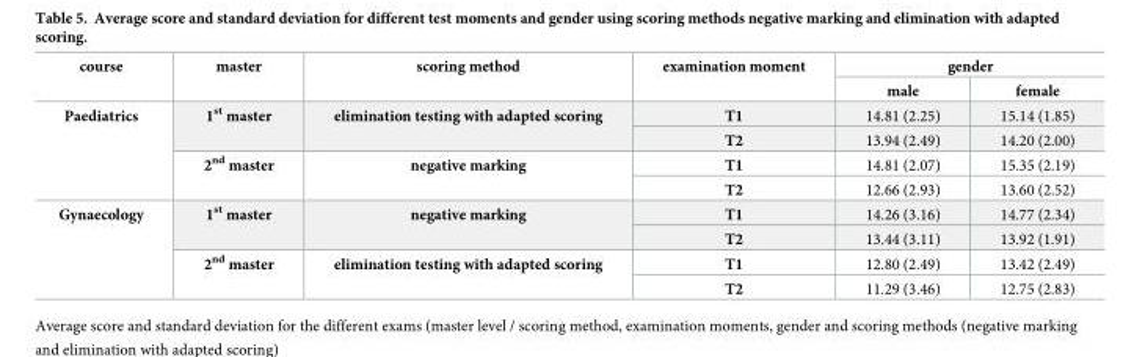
<table><thead><tr><td rowspan="2">course</td><td rowspan="2">master</td><td rowspan="2">scoring method</td><td rowspan="2">examination moment</td><td colspan="2">gender</td></tr><tr><td>male</td><td>female</td></tr></thead><tbody><tr><td rowspan="4">Paediatrics</td><td rowspan="2">1<sup>st</sup> master</td><td rowspan="2">elimination testing with adapted scoring</td><td>T1</td><td>14.81 (2.25)</td><td>15.14 (1.85)</td></tr><tr><td>T2</td><td>13.94 (2.49)</td><td>14.20 (2.00)</td></tr><tr><td rowspan="2">2<sup>nd</sup> master</td><td rowspan="2">negative marking</td><td>T1</td><td>14.81 (2.07)</td><td>15.35 (2.19)</td></tr><tr><td>T2</td><td>12.66 (2.93)</td><td>13.60 (2.52)</td></tr><tr><td rowspan="4">Gynaecology</td><td rowspan="2">1<sup>st</sup> master</td><td rowspan="2">negative marking</td><td>T1</td><td>14.26 (3.16)</td><td>14.77 (2.34)</td></tr><tr><td>T2</td><td>13.44 (3.11)</td><td>13.92 (1.91)</td></tr><tr><td rowspan="2">2<sup>nd</sup> master</td><td rowspan="2">elimination testing with adapted scoring</td><td>T1</td><td>12.80 (2.49)</td><td>13.42 (2.49)</td></tr><tr><td>T2</td><td>11.29 (3.46)</td><td>12.75 (2.83)</td></tr></tbody></table>